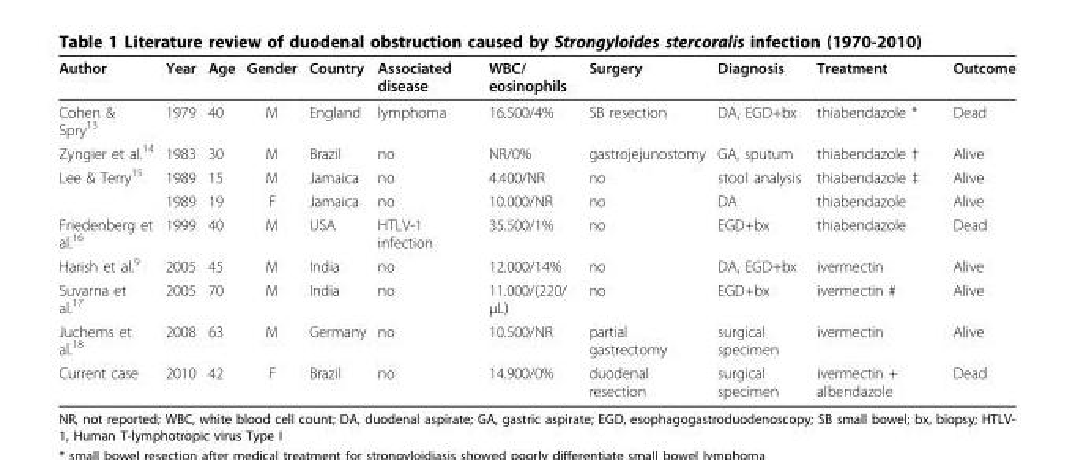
<table><thead><tr><td>Author</td><td>Year</td><td>Age</td><td>Gender</td><td>Country</td><td>Associated disease</td><td>WBC/ eosinophils</td><td>Surgery</td><td>Diagnosis</td><td>Treatment</td><td>Outcome</td></tr></thead><tbody><tr><td>Cohen &amp; Spry<sup>13</sup></td><td>1979</td><td>40</td><td>M</td><td>England</td><td>lymphoma</td><td>16.500/4%</td><td>SB resection</td><td>DA, EGD+bx</td><td>thiabendazole *</td><td>Dead</td></tr><tr><td>Zyngier et al.<sup>14</sup></td><td>1983</td><td>30</td><td>M</td><td>Brazil</td><td>no</td><td>NR/0%</td><td>gastrojejunostomy</td><td>GA, sputum</td><td>thiabendazole †</td><td>Alive</td></tr><tr><td rowspan="2">Lee &amp; Terry<sup>15</sup></td><td>1989</td><td>15</td><td>M</td><td>Jamaica</td><td>no</td><td>4.400/NR</td><td>no</td><td>stool analysis</td><td>thiabendazole ‡</td><td>Alive</td></tr><tr><td>1989</td><td>19</td><td>F</td><td>Jamaica</td><td>no</td><td>10.000/NR</td><td>no</td><td>DA</td><td>thiabendazole</td><td>Alive</td></tr><tr><td>Friedenberg et al.<sup>16</sup></td><td>1999</td><td>40</td><td>M</td><td>USA</td><td>HTLV-1 infection</td><td>35.500/1%</td><td>no</td><td>EGD+bx</td><td>thiabendazole</td><td>Dead</td></tr><tr><td>Harish et al.<sup>9</sup></td><td>2005</td><td>45</td><td>M</td><td>India</td><td>no</td><td>12.000/14%</td><td>no</td><td>DA, EGD+bx</td><td>ivermectin</td><td>Alive</td></tr><tr><td>Suvarna et al.<sup>17</sup></td><td>2005</td><td>70</td><td>M</td><td>India</td><td>no</td><td>11.000/(220/ μL)</td><td>no</td><td>EGD+bx</td><td>ivermectin #</td><td>Alive</td></tr><tr><td>Juchems et al.<sup>18</sup></td><td>2008</td><td>63</td><td>M</td><td>Germany</td><td>no</td><td>10.500/NR</td><td>partial gastrectomy</td><td>surgical specimen</td><td>ivermectin</td><td>Alive</td></tr><tr><td>Current case</td><td>2010</td><td>42</td><td>F</td><td>Brazil</td><td>no</td><td>14.900/0%</td><td>duodenal resection</td><td>surgical specimen</td><td>ivermectin + albendazole</td><td>Dead</td></tr></tbody></table>